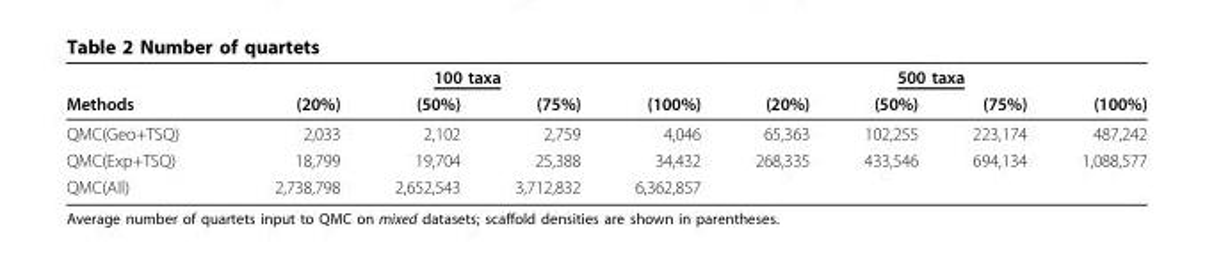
<table><thead><tr><td rowspan="2">Methods</td><td colspan="4">100 taxa</td><td colspan="4">500 taxa</td></tr><tr><td>(20%)</td><td>(50%)</td><td>(75%)</td><td>(100%)</td><td>(20%)</td><td>(50%)</td><td>(75%)</td><td>(100%)</td></tr></thead><tbody><tr><td>QMC(Geo+TSQ)</td><td>2,033</td><td>2,102</td><td>2,759</td><td>4,046</td><td>65,363</td><td>102,255</td><td>223,174</td><td>487,242</td></tr><tr><td>QMC(Exp+TSQ)</td><td>18,799</td><td>19,704</td><td>25,388</td><td>34,432</td><td>268,335</td><td>433,546</td><td>694,134</td><td>1,088,577</td></tr><tr><td>QMC(All)</td><td>2,738,798</td><td>2,652,543</td><td>3,712,832</td><td>6,362,857</td><td></td><td></td><td></td><td></td></tr></tbody></table>